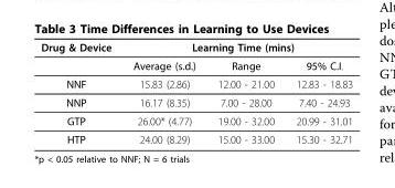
<table><thead><tr><td rowspan="2">Drug &amp; Device</td><td colspan="3">Learning Time (mins)</td></tr><tr><td>Average (s.d.)</td><td>Range</td><td>95% C.I.</td></tr></thead><tbody><tr><td>NNF</td><td>15.83 (2.86)</td><td>12.00 - 21.00</td><td>12.83 - 18.83</td></tr><tr><td>NNP</td><td>16.17 (8.35)</td><td>7.00 - 28.00</td><td>7.40 - 24.93</td></tr><tr><td>GTP</td><td>26.00* (4.77)</td><td>19.00 - 32.00</td><td>20.99 - 31.01</td></tr><tr><td>HTP</td><td>24.00 (8.29)</td><td>15.00 - 33.00</td><td>15.30 - 32.71</td></tr></tbody></table>